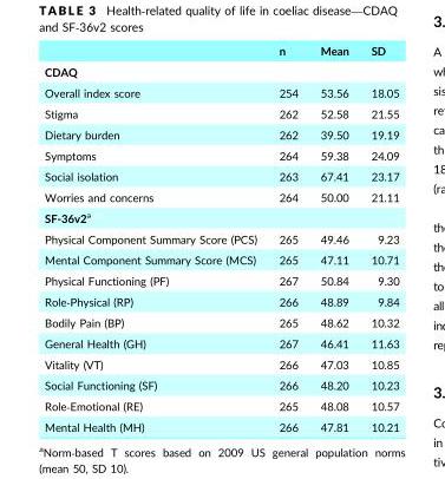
<table><thead><tr><td></td><td>n</td><td>Mean</td><td>SD</td></tr></thead><tbody><tr><td colspan="4">CDAQ</td></tr><tr><td>Overall index score</td><td>254</td><td>53.56</td><td>18.05</td></tr><tr><td>Stigma</td><td>262</td><td>52.58</td><td>21.55</td></tr><tr><td>Dietary burden</td><td>262</td><td>39.50</td><td>19.19</td></tr><tr><td>Symptoms</td><td>264</td><td>59.38</td><td>24.09</td></tr><tr><td>Social isolation</td><td>263</td><td>67.41</td><td>23.17</td></tr><tr><td>Worries and concerns</td><td>264</td><td>50.00</td><td>21.11</td></tr><tr><td colspan="4">SF-36v2a</td></tr><tr><td>Physical Component Summary Score (PCS)</td><td>265</td><td>49.46</td><td>9.23</td></tr><tr><td>Mental Component Summary Score (MCS)</td><td>265</td><td>47.11</td><td>10.71</td></tr><tr><td>Physical Functioning (PF)</td><td>267</td><td>50.84</td><td>9.30</td></tr><tr><td>Role‐Physical (RP)</td><td>266</td><td>48.89</td><td>9.84</td></tr><tr><td>Bodily Pain (BP)</td><td>265</td><td>48.62</td><td>10.32</td></tr><tr><td>General Health (GH)</td><td>267</td><td>46.41</td><td>11.63</td></tr><tr><td>Vitality (VT)</td><td>266</td><td>47.03</td><td>10.85</td></tr><tr><td>Social Functioning (SF)</td><td>266</td><td>48.20</td><td>10.23</td></tr><tr><td>Role‐Emotional (RE)</td><td>265</td><td>48.08</td><td>10.57</td></tr><tr><td>Mental Health (MH)</td><td>266</td><td>47.81</td><td>10.21</td></tr></tbody></table>